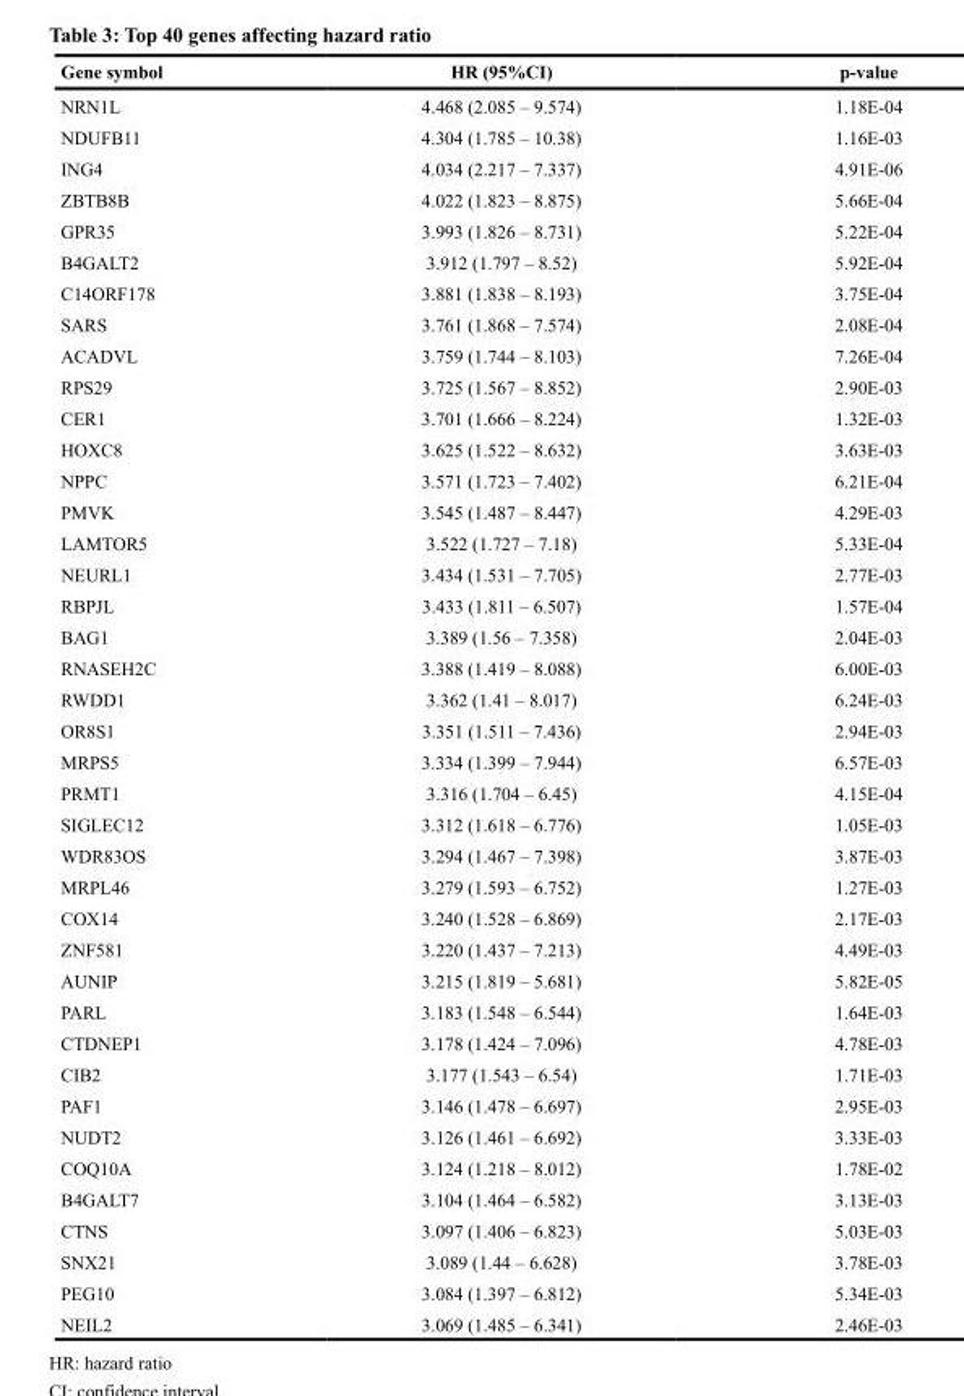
<table><thead><tr><td>Gene symbol</td><td>HR (95%CI)</td><td>p-value</td></tr></thead><tbody><tr><td>NRN1L</td><td>4.468 (2.085 – 9.574)</td><td>1.18E-04</td></tr><tr><td>NDUFB11</td><td>4.304 (1.785 – 10.38)</td><td>1.16E-03</td></tr><tr><td>ING4</td><td>4.034 (2.217 – 7.337)</td><td>4.91E-06</td></tr><tr><td>ZBTB8B</td><td>4.022 (1.823 – 8.875)</td><td>5.66E-04</td></tr><tr><td>GPR35</td><td>3.993 (1.826 – 8.731)</td><td>5.22E-04</td></tr><tr><td>B4GALT2</td><td>3.912 (1.797 – 8.52)</td><td>5.92E-04</td></tr><tr><td>C14ORF178</td><td>3.881 (1.838 – 8.193)</td><td>3.75E-04</td></tr><tr><td>SARS</td><td>3.761 (1.868 – 7.574)</td><td>2.08E-04</td></tr><tr><td>ACADVL</td><td>3.759 (1.744 – 8.103)</td><td>7.26E-04</td></tr><tr><td>RPS29</td><td>3.725 (1.567 – 8.852)</td><td>2.90E-03</td></tr><tr><td>CER1</td><td>3.701 (1.666 – 8.224)</td><td>1.32E-03</td></tr><tr><td>HOXC8</td><td>3.625 (1.522 – 8.632)</td><td>3.63E-03</td></tr><tr><td>NPPC</td><td>3.571 (1.723 – 7.402)</td><td>6.21E-04</td></tr><tr><td>PMVK</td><td>3.545 (1.487 – 8.447)</td><td>4.29E-03</td></tr><tr><td>LAMTOR5</td><td>3.522 (1.727 – 7.18)</td><td>5.33E-04</td></tr><tr><td>NEURL1</td><td>3.434 (1.531 – 7.705)</td><td>2.77E-03</td></tr><tr><td>RBPJL</td><td>3.433 (1.811 – 6.507)</td><td>1.57E-04</td></tr><tr><td>BAG1</td><td>3.389 (1.56 – 7.358)</td><td>2.04E-03</td></tr><tr><td>RNASEH2C</td><td>3.388 (1.419 – 8.088)</td><td>6.00E-03</td></tr><tr><td>RWDD1</td><td>3.362 (1.41 – 8.017)</td><td>6.24E-03</td></tr><tr><td>OR8S1</td><td>3.351 (1.511 – 7.436)</td><td>2.94E-03</td></tr><tr><td>MRPS5</td><td>3.334 (1.399 – 7.944)</td><td>6.57E-03</td></tr><tr><td>PRMT1</td><td>3.316 (1.704 – 6.45)</td><td>4.15E-04</td></tr><tr><td>SIGLEC12</td><td>3.312 (1.618 – 6.776)</td><td>1.05E-03</td></tr><tr><td>WDR83OS</td><td>3.294 (1.467 – 7.398)</td><td>3.87E-03</td></tr><tr><td>MRPL46</td><td>3.279 (1.593 – 6.752)</td><td>1.27E-03</td></tr><tr><td>COX14</td><td>3.240 (1.528 – 6.869)</td><td>2.17E-03</td></tr><tr><td>ZNF581</td><td>3.220 (1.437 – 7.213)</td><td>4.49E-03</td></tr><tr><td>AUNIP</td><td>3.215 (1.819 – 5.681)</td><td>5.82E-05</td></tr><tr><td>PARL</td><td>3.183 (1.548 – 6.544)</td><td>1.64E-03</td></tr><tr><td>CTDNEP1</td><td>3.178 (1.424 – 7.096)</td><td>4.78E-03</td></tr><tr><td>CIB2</td><td>3.177 (1.543 – 6.54)</td><td>1.71E-03</td></tr><tr><td>PAF1</td><td>3.146 (1.478 – 6.697)</td><td>2.95E-03</td></tr><tr><td>NUDT2</td><td>3.126 (1.461 – 6.692)</td><td>3.33E-03</td></tr><tr><td>COQ10A</td><td>3.124 (1.218 – 8.012)</td><td>1.78E-02</td></tr><tr><td>B4GALT7</td><td>3.104 (1.464 – 6.582)</td><td>3.13E-03</td></tr><tr><td>CTNS</td><td>3.097 (1.406 – 6.823)</td><td>5.03E-03</td></tr><tr><td>SNX21</td><td>3.089 (1.44 – 6.628)</td><td>3.78E-03</td></tr><tr><td>PEG10</td><td>3.084 (1.397 – 6.812)</td><td>5.34E-03</td></tr><tr><td>NEIL2</td><td>3.069 (1.485 – 6.341)</td><td>2.46E-03</td></tr></tbody></table>